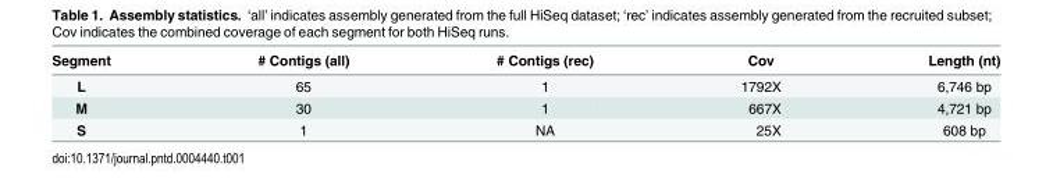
<table><thead><tr><td>Segment</td><td># Contigs (all)</td><td># Contigs (rec)</td><td>Cov</td><td>Length (nt)</td></tr></thead><tbody><tr><td>L</td><td>65</td><td>1</td><td>1792X</td><td>6,746 bp</td></tr><tr><td>M</td><td>30</td><td>1</td><td>667X</td><td>4,721 bp</td></tr><tr><td>S</td><td>1</td><td>NA</td><td>25X</td><td>608 bp</td></tr></tbody></table>